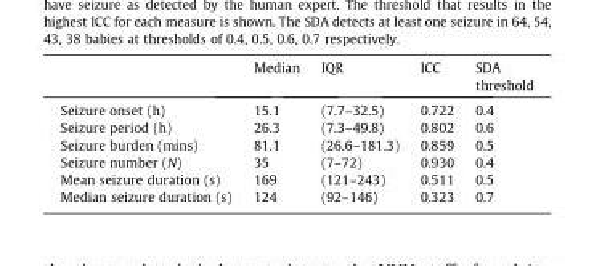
<table><thead><tr><td></td><td>Median</td><td>IQR</td><td>ICC</td><td>SDA threshold</td></tr></thead><tbody><tr><td>Seizure onset (h)</td><td>15.1</td><td>(7.7–32.5)</td><td>0.722</td><td>0.4</td></tr><tr><td>Seizure period (h)</td><td>26.3</td><td>(7.3–49.8)</td><td>0.802</td><td>0.6</td></tr><tr><td>Seizure burden (mins)</td><td>81.1</td><td>(26.6–181.3)</td><td>0.859</td><td>0.5</td></tr><tr><td>Seizure number (N)</td><td>35</td><td>(7–72)</td><td>0.930</td><td>0.4</td></tr><tr><td>Mean seizure duration (s)</td><td>169</td><td>(121–243)</td><td>0.511</td><td>0.5</td></tr><tr><td>Median seizure duration (s)</td><td>124</td><td>(92–146)</td><td>0.323</td><td>0.7</td></tr></tbody></table>